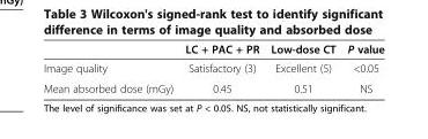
<table><thead><tr><td></td><td>LC + PAC + PR</td><td>Low-dose CT</td><td>P value</td></tr></thead><tbody><tr><td>Image quality</td><td>Satisfactory (3)</td><td>Excellent (5)</td><td>&lt;0.05</td></tr><tr><td>Mean absorbed dose (mGy)</td><td>0.45</td><td>0.51</td><td>NS</td></tr></tbody></table>